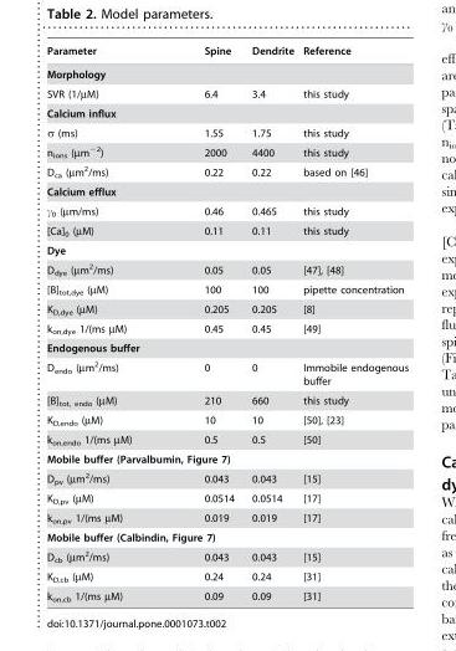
<table><thead><tr><td>Parameter</td><td>Spine</td><td>Dendrite</td><td>Reference</td></tr></thead><tbody><tr><td colspan="4">Morphology</td></tr><tr><td>SVR (1/µM)</td><td>6.4</td><td>3.4</td><td>this study</td></tr><tr><td colspan="4">Calcium influx</td></tr><tr><td>σ (ms)</td><td>1.55</td><td>1.75</td><td>this study</td></tr><tr><td>n<sub>ions</sub> (µm<sup>−2</sup>)</td><td>2000</td><td>4400</td><td>this study</td></tr><tr><td>D<sub>ca</sub> (µm<sup>2</sup>/ms)</td><td>0.22</td><td>0.22</td><td>based on [46]</td></tr><tr><td colspan="4">Calcium efflux</td></tr><tr><td>γ<sub>0</sub> (µm/ms)</td><td>0.46</td><td>0.465</td><td>this study</td></tr><tr><td>[Ca]<sub>0</sub> (µM)</td><td>0.11</td><td>0.11</td><td>this study</td></tr><tr><td colspan="4">Dye</td></tr><tr><td>D<sub>dye</sub> (µm<sup>2</sup>/ms)</td><td>0.05</td><td>0.05</td><td>[47], [48]</td></tr><tr><td>[B]<sub>tot,dye</sub> (µM)</td><td>100</td><td>100</td><td>pipette concentration</td></tr><tr><td>K<sub>D,dye</sub> (µM)</td><td>0.205</td><td>0.205</td><td>[8]</td></tr><tr><td>k<sub>on,dye</sub> 1/(ms µM)</td><td>0.45</td><td>0.45</td><td>[49]</td></tr><tr><td colspan="4">Endogenous buffer</td></tr><tr><td>D<sub>endo</sub> (µm<sup>2</sup>/ms)</td><td>0</td><td>0</td><td>Immobile endogenous buffer</td></tr><tr><td>[B]<sub>tot, endo</sub> (µM)</td><td>210</td><td>660</td><td>this study</td></tr><tr><td>K<sub>D,endo</sub> (µM)</td><td>10</td><td>10</td><td>[50], [23]</td></tr><tr><td>k<sub>on,endo</sub> 1/(ms µM)</td><td>0.5</td><td>0.5</td><td>[50]</td></tr><tr><td colspan="4">Mobile buffer (Parvalbumin, Figure 7)</td></tr><tr><td>D<sub>pv</sub> (µm<sup>2</sup>/ms)</td><td>0.043</td><td>0.043</td><td>[15]</td></tr><tr><td>K<sub>D,pv</sub> (µM)</td><td>0.0514</td><td>0.0514</td><td>[17]</td></tr><tr><td>k<sub>on,pv</sub> 1/(ms µM)</td><td>0.019</td><td>0.019</td><td>[17]</td></tr><tr><td colspan="4">Mobile buffer (Calbindin, Figure 7)</td></tr><tr><td>D<sub>cb</sub> (µm<sup>2</sup>/ms)</td><td>0.043</td><td>0.043</td><td>[15]</td></tr><tr><td>K<sub>D,cb</sub> (µM)</td><td>0.24</td><td>0.24</td><td>[31]</td></tr><tr><td>k<sub>on,cb</sub> 1/(ms µM)</td><td>0.09</td><td>0.09</td><td>[31]</td></tr></tbody></table>